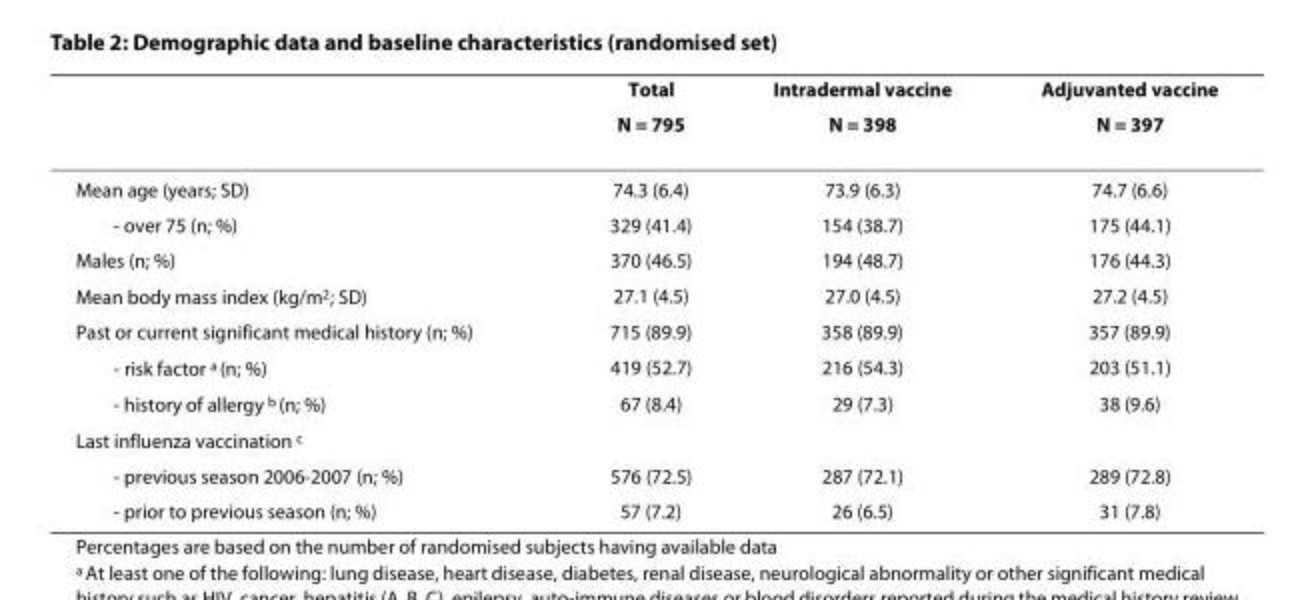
<table><thead><tr><td rowspan="2"></td><td rowspan="2">Total N = 795</td><td rowspan="2">Intradermal vaccine N = 398</td><td rowspan="2">Adjuvanted vaccine N = 397</td></tr><tr></tr></thead><tbody><tr><td>Mean age (years; SD)</td><td>74.3 (6.4)</td><td>73.9 (6.3)</td><td>74.7 (6.6)</td></tr><tr><td>- over 75 (n; %)</td><td>329 (41.4)</td><td>154 (38.7)</td><td>175 (44.1)</td></tr><tr><td>Males (n; %)</td><td>370 (46.5)</td><td>194 (48.7)</td><td>176 (44.3)</td></tr><tr><td>Mean body mass index (kg/m<sup>2</sup>; SD)</td><td>27.1 (4.5)</td><td>27.0 (4.5)</td><td>27.2 (4.5)</td></tr><tr><td>Past or current significant medical history (n; %)</td><td>715 (89.9)</td><td>358 (89.9)</td><td>357 (89.9)</td></tr><tr><td>- risk factor <sup>a</sup> (n; %)</td><td>419 (52.7)</td><td>216 (54.3)</td><td>203 (51.1)</td></tr><tr><td>- history of allergy <sup>b</sup> (n; %)</td><td>67 (8.4)</td><td>29 (7.3)</td><td>38 (9.6)</td></tr><tr><td colspan="4">Last influenza vaccination <sup>c</sup></td></tr><tr><td>- previous season 2006-2007 (n; %)</td><td>576 (72.5)</td><td>287 (72.1)</td><td>289 (72.8)</td></tr><tr><td>- prior to previous season (n; %)</td><td>57 (7.2)</td><td>26 (6.5)</td><td>31 (7.8)</td></tr></tbody></table>